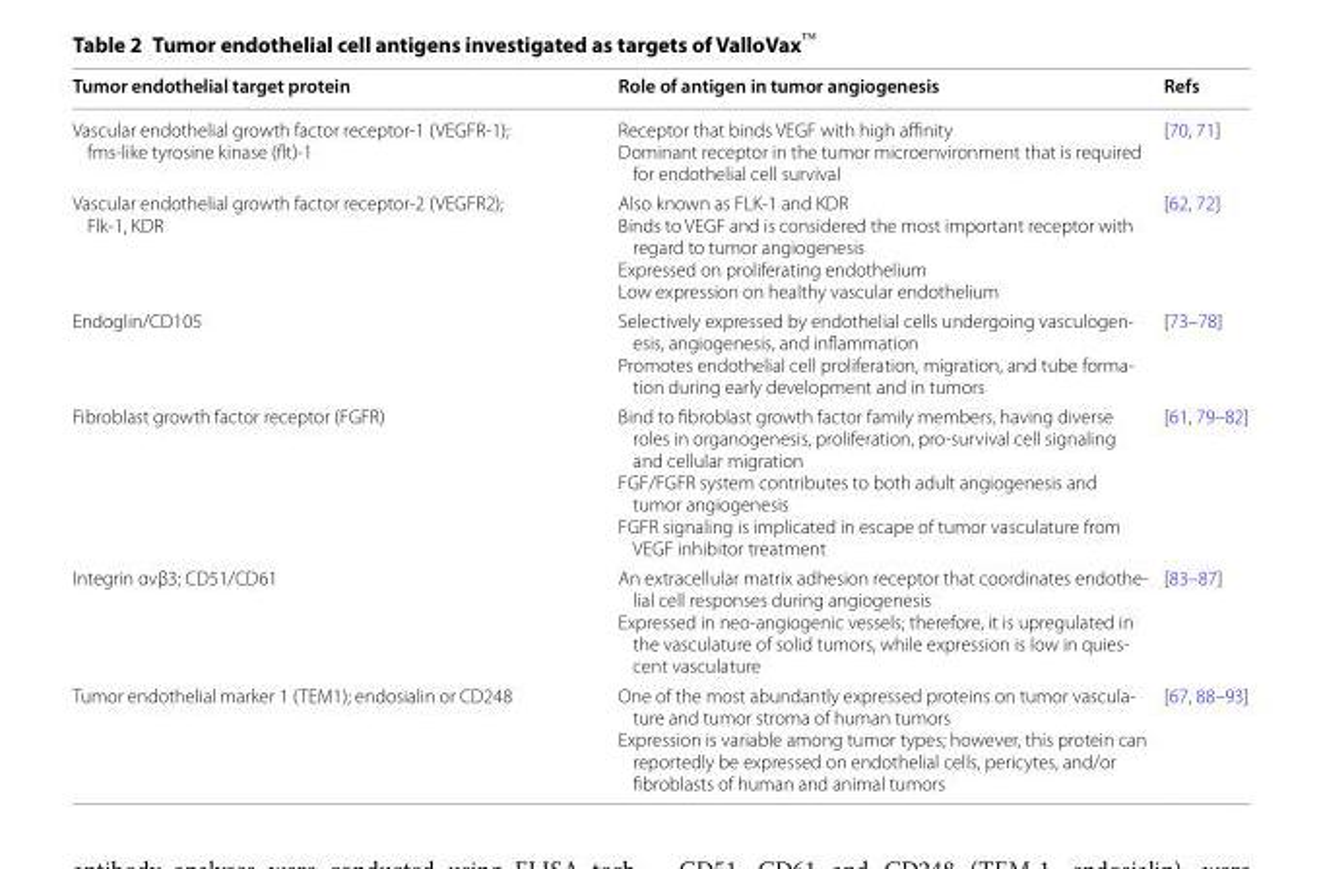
<table><thead><tr><td>Tumor endothelial target protein</td><td>Role of antigen in tumor angiogenesis</td><td>Refs</td></tr></thead><tbody><tr><td>Vascular endothelial growth factor receptor‑1 (VEGFR‑1); fms‑like tyrosine kinase (flt)‑1</td><td>Receptor that binds VEGF with high affinity Dominant receptor in the tumor microenvironment that is required for endothelial cell survival</td><td>[70, 71]</td></tr><tr><td>Vascular endothelial growth factor receptor‑2 (VEGFR2); Flk‑1, KDR</td><td>Also known as FLK‑1 and KDR Binds to VEGF and is considered the most important receptor with regard to tumor angiogenesis Expressed on proliferating endothelium Low expression on healthy vascular endothelium</td><td>[62, 72]</td></tr><tr><td>Endoglin/CD105</td><td>Selectively expressed by endothelial cells undergoing vasculogen‑ esis, angiogenesis, and inflammation Promotes endothelial cell proliferation, migration, and tube forma‑ tion during early development and in tumors</td><td>[73–78]</td></tr><tr><td>Fibroblast growth factor receptor (FGFR)</td><td>Bind to fibroblast growth factor family members, having diverse roles in organogenesis, proliferation, pro‑survival cell signaling and cellular migration FGF/FGFR system contributes to both adult angiogenesis and tumor angiogenesis FGFR signaling is implicated in escape of tumor vasculature from VEGF inhibitor treatment</td><td>[61, 79–82]</td></tr><tr><td>Integrin αvβ3; CD51/CD61</td><td>An extracellular matrix adhesion receptor that coordinates endothe‑ lial cell responses during angiogenesis Expressed in neo‑angiogenic vessels; therefore, it is upregulated in the vasculature of solid tumors, while expression is low in quies‑ cent vasculature</td><td>[83–87]</td></tr><tr><td>Tumor endothelial marker 1 (TEM1); endosialin or CD248</td><td>One of the most abundantly expressed proteins on tumor vascula‑ ture and tumor stroma of human tumors Expression is variable among tumor types; however, this protein can reportedly be expressed on endothelial cells, pericytes, and/or fibroblasts of human and animal tumors</td><td>[67, 88–93]</td></tr></tbody></table>